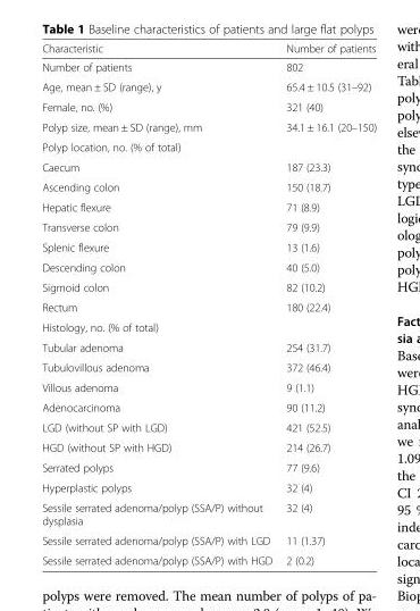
<table><thead><tr><td>Characteristic</td><td>Number of patients</td></tr></thead><tbody><tr><td>Number of patients</td><td>802</td></tr><tr><td>Age, mean ± SD (range), y</td><td>65.4 ± 10.5 (31–92)</td></tr><tr><td>Female, no. (%)</td><td>321 (40)</td></tr><tr><td>Polyp size, mean ± SD (range), mm</td><td>34.1 ± 16.1 (20–150)</td></tr><tr><td colspan="2">Polyp location, no. (% of total)</td></tr><tr><td>Caecum</td><td>187 (23.3)</td></tr><tr><td>Ascending colon</td><td>150 (18.7)</td></tr><tr><td>Hepatic flexure</td><td>71 (8.9)</td></tr><tr><td>Transverse colon</td><td>79 (9.9)</td></tr><tr><td>Splenic flexure</td><td>13 (1.6)</td></tr><tr><td>Descending colon</td><td>40 (5.0)</td></tr><tr><td>Sigmoid colon</td><td>82 (10.2)</td></tr><tr><td>Rectum</td><td>180 (22.4)</td></tr><tr><td colspan="2">Histology, no. (% of total)</td></tr><tr><td>Tubular adenoma</td><td>254 (31.7)</td></tr><tr><td>Tubulovillous adenoma</td><td>372 (46.4)</td></tr><tr><td>Villous adenoma</td><td>9 (1.1)</td></tr><tr><td>Adenocarcinoma</td><td>90 (11.2)</td></tr><tr><td>LGD (without SP with LGD)</td><td>421 (52.5)</td></tr><tr><td>HGD (without SP with HGD)</td><td>214 (26.7)</td></tr><tr><td>Serrated polyps</td><td>77 (9.6)</td></tr><tr><td>Hyperplastic polyps</td><td>32 (4)</td></tr><tr><td>Sessile serrated adenoma/polyp (SSA/P) without dysplasia</td><td>32 (4)</td></tr><tr><td>Sessile serrated adenoma/polyp (SSA/P) with LGD</td><td>11 (1.37)</td></tr><tr><td>Sessile serrated adenoma/polyp (SSA/P) with HGD</td><td>2 (0.2)</td></tr></tbody></table>